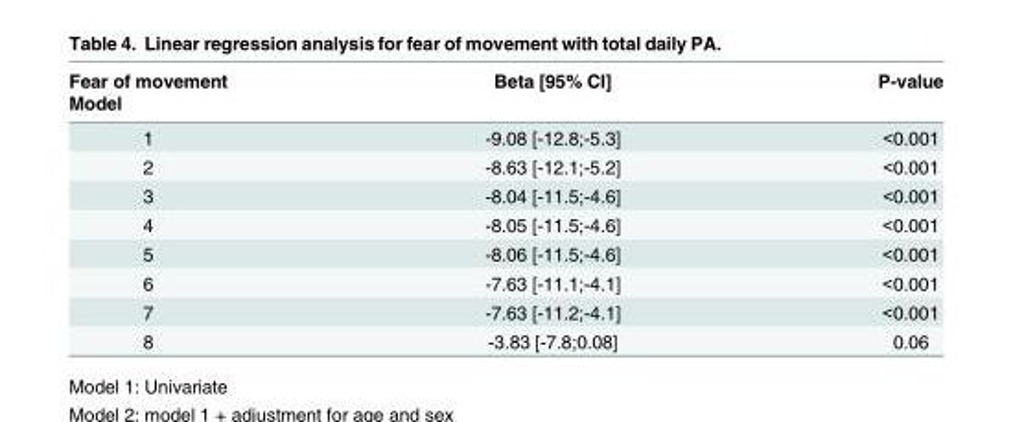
<table><thead><tr><td rowspan="2">Fear of movement Model</td><td rowspan="2">Beta [95% CI]</td><td rowspan="2">P-value</td></tr><tr></tr></thead><tbody><tr><td>1</td><td>-9.08 [-12.8;-5.3]</td><td>&lt;0.001</td></tr><tr><td>2</td><td>-8.63 [-12.1;-5.2]</td><td>&lt;0.001</td></tr><tr><td>3</td><td>-8.04 [-11.5;-4.6]</td><td>&lt;0.001</td></tr><tr><td>4</td><td>-8.05 [-11.5;-4.6]</td><td>&lt;0.001</td></tr><tr><td>5</td><td>-8.06 [-11.5;-4.6]</td><td>&lt;0.001</td></tr><tr><td>6</td><td>-7.63 [-11.1;-4.1]</td><td>&lt;0.001</td></tr><tr><td>7</td><td>-7.63 [-11.2;-4.1]</td><td>&lt;0.001</td></tr><tr><td>8</td><td>-3.83 [-7.8;0.08]</td><td>0.06</td></tr></tbody></table>